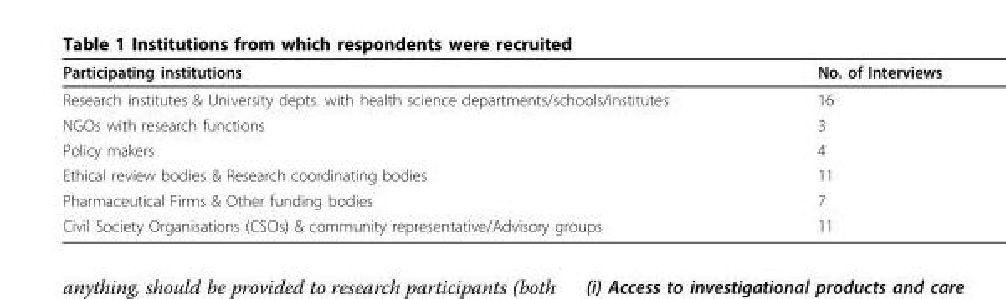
<table><thead><tr><td>Participating institutions</td><td>No. of Interviews</td></tr></thead><tbody><tr><td>Research institutes &amp; University depts. with health science departments/schools/institutes</td><td>16</td></tr><tr><td>NGOs with research functions</td><td>3</td></tr><tr><td>Policy makers</td><td>4</td></tr><tr><td>Ethical review bodies &amp; Research coordinating bodies</td><td>11</td></tr><tr><td>Pharmaceutical Firms &amp; Other funding bodies</td><td>7</td></tr><tr><td>Civil Society Organisations (CSOs) &amp; community representative/Advisory groups</td><td>11</td></tr></tbody></table>